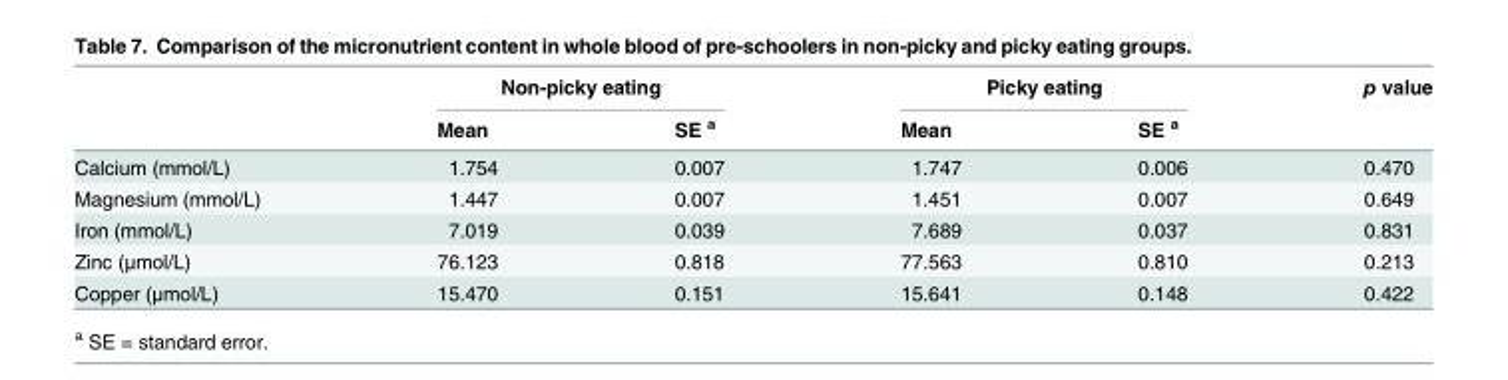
<table><thead><tr><td rowspan="2"></td><td colspan="2">Non-picky eating</td><td colspan="2">Picky eating</td><td rowspan="2">p value</td></tr><tr><td>Mean</td><td>SE <sup>a</sup></td><td>Mean</td><td>SE <sup>a</sup></td></tr></thead><tbody><tr><td>Calcium (mmol/L)</td><td>1.754</td><td>0.007</td><td>1.747</td><td>0.006</td><td>0.470</td></tr><tr><td>Magnesium (mmol/L)</td><td>1.447</td><td>0.007</td><td>1.451</td><td>0.007</td><td>0.649</td></tr><tr><td>Iron (mmol/L)</td><td>7.019</td><td>0.039</td><td>7.689</td><td>0.037</td><td>0.831</td></tr><tr><td>Zinc (μmol/L)</td><td>76.123</td><td>0.818</td><td>77.563</td><td>0.810</td><td>0.213</td></tr><tr><td>Copper (μmol/L)</td><td>15.470</td><td>0.151</td><td>15.641</td><td>0.148</td><td>0.422</td></tr></tbody></table>